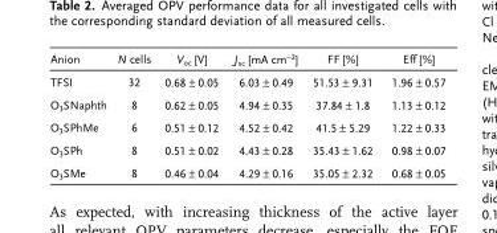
<table><thead><tr><td>Anion</td><td>N cells</td><td>V<sub>oc</sub> [V]</td><td>J<sub>sc</sub> [mA cm<sup>−2</sup>]</td><td>FF [%]</td><td>Eff [%]</td></tr></thead><tbody><tr><td>TFSI</td><td>32</td><td>0.68 ± 0.05</td><td>6.03 ± 0.49</td><td>51.53 ± 9.31</td><td>1.96 ± 0.57</td></tr><tr><td>O<sub>3</sub>SNaphth</td><td>8</td><td>0.62 ± 0.05</td><td>4.94 ± 0.35</td><td>37.84 ± 1.8</td><td>1.13 ± 0.12</td></tr><tr><td>O<sub>3</sub>SPhMe</td><td>6</td><td>0.51 ± 0.12</td><td>4.52 ± 0.42</td><td>41.5 ± 5.29</td><td>1.22 ± 0.33</td></tr><tr><td>O<sub>3</sub>SPh</td><td>8</td><td>0.51 ± 0.02</td><td>4.43 ± 0.28</td><td>35.43 ± 1.62</td><td>0.98 ± 0.07</td></tr><tr><td>O<sub>3</sub>SMe</td><td>8</td><td>0.46 ± 0.04</td><td>4.29 ± 0.16</td><td>35.05 ± 2.32</td><td>0.68 ± 0.05</td></tr></tbody></table>